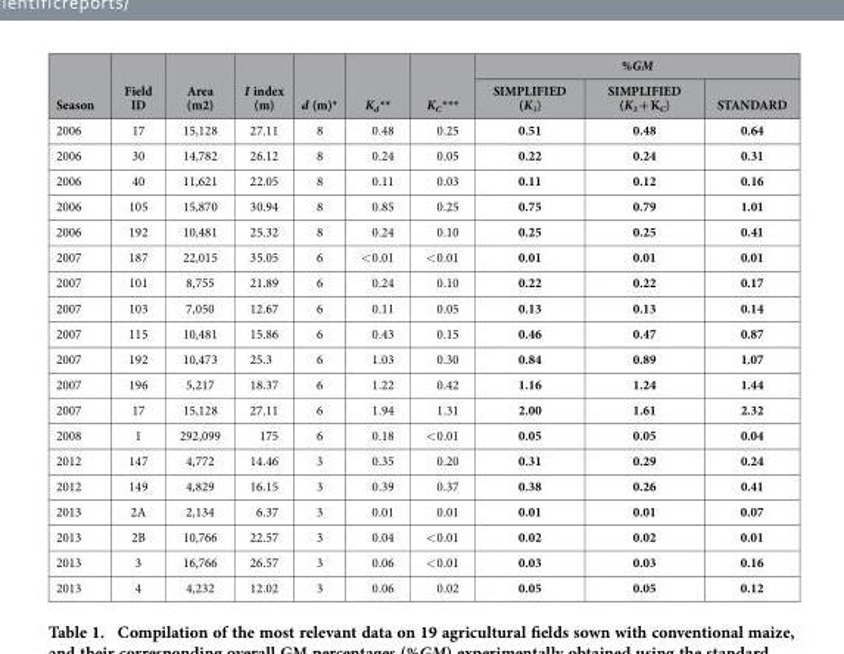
<table><thead><tr><td rowspan="2">Season</td><td rowspan="2">Field ID</td><td rowspan="2">Area (m2)</td><td rowspan="2">I index (m)</td><td rowspan="2">d (m)*</td><td rowspan="2">K<sub>d</sub>**</td><td rowspan="2">K<sub>C</sub>***</td><td colspan="3">%GM</td></tr><tr><td>SIMPLIFIED (K<sub>3</sub>)</td><td>SIMPLIFIED (K<sub>3</sub> + K<sub>C</sub>)</td><td>STANDARD</td></tr></thead><tbody><tr><td>2006</td><td>17</td><td>15,128</td><td>27.11</td><td>8</td><td>0.48</td><td>0.25</td><td>0.51</td><td>0.48</td><td>0.64</td></tr><tr><td>2006</td><td>30</td><td>14,782</td><td>26.12</td><td>8</td><td>0.24</td><td>0.05</td><td>0.22</td><td>0.24</td><td>0.31</td></tr><tr><td>2006</td><td>40</td><td>11,621</td><td>22.05</td><td>8</td><td>0.11</td><td>0.03</td><td>0.11</td><td>0.12</td><td>0.16</td></tr><tr><td>2006</td><td>105</td><td>15,870</td><td>30.94</td><td>8</td><td>0.85</td><td>0.25</td><td>0.75</td><td>0.79</td><td>1.01</td></tr><tr><td>2006</td><td>192</td><td>10,481</td><td>25.32</td><td>8</td><td>0.24</td><td>0.10</td><td>0.25</td><td>0.25</td><td>0.41</td></tr><tr><td>2007</td><td>187</td><td>22,015</td><td>35.05</td><td>6</td><td>&lt; 0.01</td><td>&lt; 0.01</td><td>0.01</td><td>0.01</td><td>0.01</td></tr><tr><td>2007</td><td>101</td><td>8,755</td><td>21.89</td><td>6</td><td>0.24</td><td>0.10</td><td>0.22</td><td>0.22</td><td>0.17</td></tr><tr><td>2007</td><td>103</td><td>7,050</td><td>12.67</td><td>6</td><td>0.11</td><td>0.05</td><td>0.13</td><td>0.13</td><td>0.14</td></tr><tr><td>2007</td><td>115</td><td>10,481</td><td>15.86</td><td>6</td><td>0.43</td><td>0.15</td><td>0.46</td><td>0.47</td><td>0.87</td></tr><tr><td>2007</td><td>192</td><td>10,473</td><td>25.3</td><td>6</td><td>1.03</td><td>0.30</td><td>0.84</td><td>0.89</td><td>1.07</td></tr><tr><td>2007</td><td>196</td><td>5,217</td><td>18.37</td><td>6</td><td>1.22</td><td>0.42</td><td>1.16</td><td>1.24</td><td>1.44</td></tr><tr><td>2007</td><td>17</td><td>15,128</td><td>27.11</td><td>6</td><td>1.94</td><td>1.31</td><td>2.00</td><td>1.61</td><td>2.32</td></tr><tr><td>2008</td><td>1</td><td>292,099</td><td>175</td><td>6</td><td>0.18</td><td>&lt; 0.01</td><td>0.05</td><td>0.05</td><td>0.04</td></tr><tr><td>2012</td><td>147</td><td>4,772</td><td>14.46</td><td>3</td><td>0.35</td><td>0.20</td><td>0.31</td><td>0.29</td><td>0.24</td></tr><tr><td>2012</td><td>149</td><td>4,829</td><td>16.15</td><td>3</td><td>0.39</td><td>0.37</td><td>0.38</td><td>0.26</td><td>0.41</td></tr><tr><td>2013</td><td>2A</td><td>2,134</td><td>6.37</td><td>3</td><td>0.01</td><td>0.01</td><td>0.01</td><td>0.01</td><td>0.07</td></tr><tr><td>2013</td><td>2B</td><td>10,766</td><td>22.57</td><td>3</td><td>0.04</td><td>&lt; 0.01</td><td>0.02</td><td>0.02</td><td>0.01</td></tr><tr><td>2013</td><td>3</td><td>16,766</td><td>26.57</td><td>3</td><td>0.06</td><td>&lt; 0.01</td><td>0.03</td><td>0.03</td><td>0.16</td></tr><tr><td>2013</td><td>4</td><td>4,232</td><td>12.02</td><td>3</td><td>0.06</td><td>0.02</td><td>0.05</td><td>0.05</td><td>0.12</td></tr></tbody></table>